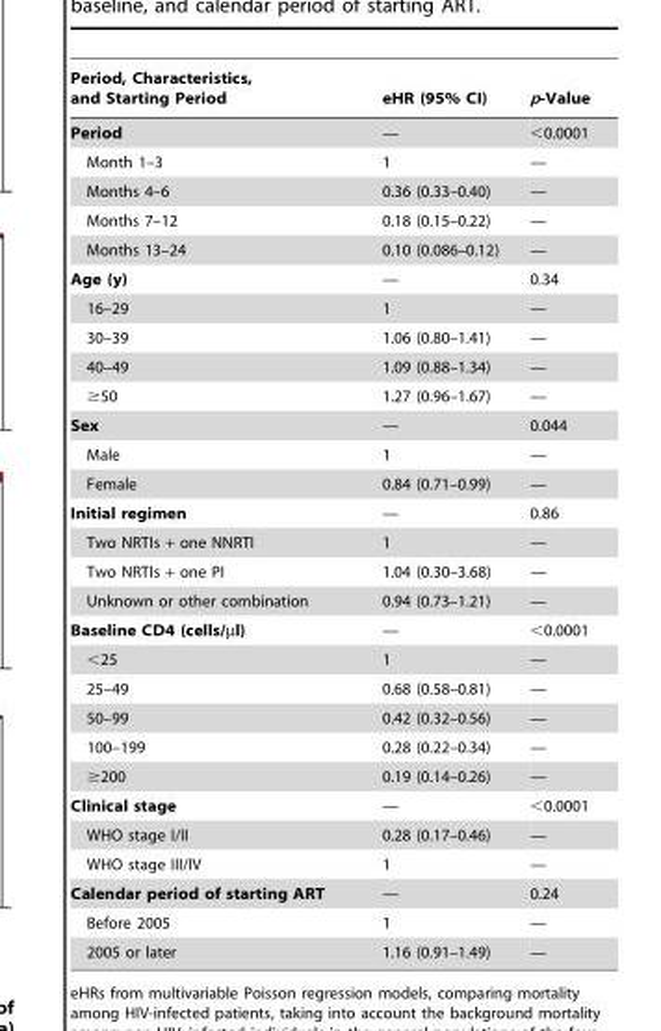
<table><thead><tr><td>Period, Characteristics, and Starting Period</td><td>eHR (95% CI)</td><td>p-Value</td></tr></thead><tbody><tr><td>Period</td><td>—</td><td>&lt;0.0001</td></tr><tr><td>Month 1–3</td><td>1</td><td>—</td></tr><tr><td>Months 4–6</td><td>0.36 (0.33–0.40)</td><td>—</td></tr><tr><td>Months 7–12</td><td>0.18 (0.15–0.22)</td><td>—</td></tr><tr><td>Months 13–24</td><td>0.10 (0.086–0.12)</td><td>—</td></tr><tr><td>Age (y)</td><td>—</td><td>0.34</td></tr><tr><td>16–29</td><td>1</td><td>—</td></tr><tr><td>30–39</td><td>1.06 (0.80–1.41)</td><td>—</td></tr><tr><td>40–49</td><td>1.09 (0.88–1.34)</td><td>—</td></tr><tr><td>≥50</td><td>1.27 (0.96–1.67)</td><td>—</td></tr><tr><td>Sex</td><td>—</td><td>0.044</td></tr><tr><td>Male</td><td>1</td><td>—</td></tr><tr><td>Female</td><td>0.84 (0.71–0.99)</td><td>—</td></tr><tr><td>Initial regimen</td><td>—</td><td>0.86</td></tr><tr><td>Two NRTIs + one NNRTI</td><td>1</td><td>—</td></tr><tr><td>Two NRTIs + one PI</td><td>1.04 (0.30–3.68)</td><td>—</td></tr><tr><td>Unknown or other combination</td><td>0.94 (0.73–1.21)</td><td>—</td></tr><tr><td>Baseline CD4 (cells/µl)</td><td>—</td><td>&lt;0.0001</td></tr><tr><td>&lt;25</td><td>1</td><td>—</td></tr><tr><td>25–49</td><td>0.68 (0.58–0.81)</td><td>—</td></tr><tr><td>50–99</td><td>0.42 (0.32–0.56)</td><td>—</td></tr><tr><td>100–199</td><td>0.28 (0.22–0.34)</td><td>—</td></tr><tr><td>≥200</td><td>0.19 (0.14–0.26)</td><td>—</td></tr><tr><td>Clinical stage</td><td>—</td><td>&lt;0.0001</td></tr><tr><td>WHO stage I/II</td><td>0.28 (0.17–0.46)</td><td>—</td></tr><tr><td>WHO stage III/IV</td><td>1</td><td>—</td></tr><tr><td>Calendar period of starting ART</td><td>—</td><td>0.24</td></tr><tr><td>Before 2005</td><td>1</td><td>—</td></tr><tr><td>2005 or later</td><td>1.16 (0.91–1.49)</td><td>—</td></tr></tbody></table>